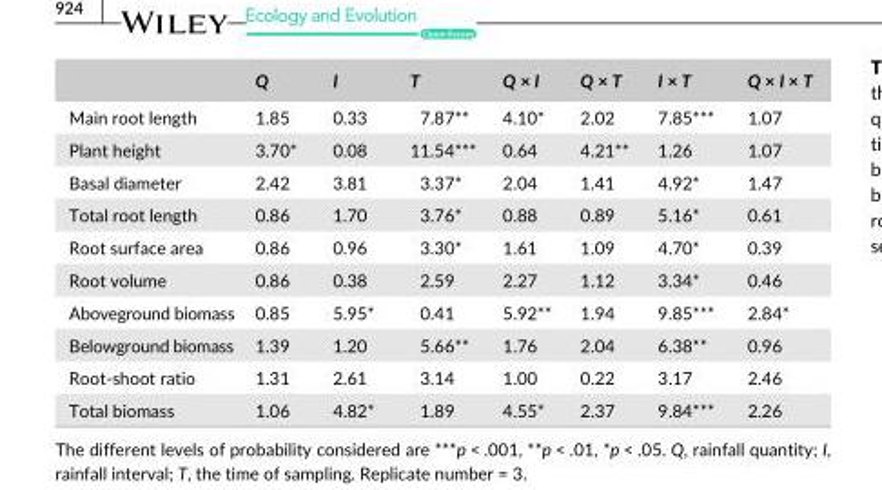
<table><thead><tr><td></td><td>Q</td><td>I</td><td>T</td><td>Q × I</td><td>Q × T</td><td>I × T</td><td>Q × I × T</td></tr></thead><tbody><tr><td>Main root length</td><td>1.85</td><td>0.33</td><td>7.87**</td><td>4.10*</td><td>2.02</td><td>7.85***</td><td>1.07</td></tr><tr><td>Plant height</td><td>3.70*</td><td>0.08</td><td>11.54***</td><td>0.64</td><td>4.21**</td><td>1.26</td><td>1.07</td></tr><tr><td>Basal diameter</td><td>2.42</td><td>3.81</td><td>3.37*</td><td>2.04</td><td>1.41</td><td>4.92*</td><td>1.47</td></tr><tr><td>Total root length</td><td>0.86</td><td>1.70</td><td>3.76*</td><td>0.88</td><td>0.89</td><td>5.16*</td><td>0.61</td></tr><tr><td>Root surface area</td><td>0.86</td><td>0.96</td><td>3.30*</td><td>1.61</td><td>1.09</td><td>4.70*</td><td>0.39</td></tr><tr><td>Root volume</td><td>0.86</td><td>0.38</td><td>2.59</td><td>2.27</td><td>1.12</td><td>3.34*</td><td>0.46</td></tr><tr><td>Aboveground biomass</td><td>0.85</td><td>5.95*</td><td>0.41</td><td>5.92**</td><td>1.94</td><td>9.85***</td><td>2.84*</td></tr><tr><td>Belowground biomass</td><td>1.39</td><td>1.20</td><td>5.66**</td><td>1.76</td><td>2.04</td><td>6.38**</td><td>0.96</td></tr><tr><td>Root- shoot ratio</td><td>1.31</td><td>2.61</td><td>3.14</td><td>1.00</td><td>0.22</td><td>3.17</td><td>2.46</td></tr><tr><td>Total biomass</td><td>1.06</td><td>4.82*</td><td>1.89</td><td>4.55*</td><td>2.37</td><td>9.84***</td><td>2.26</td></tr></tbody></table>